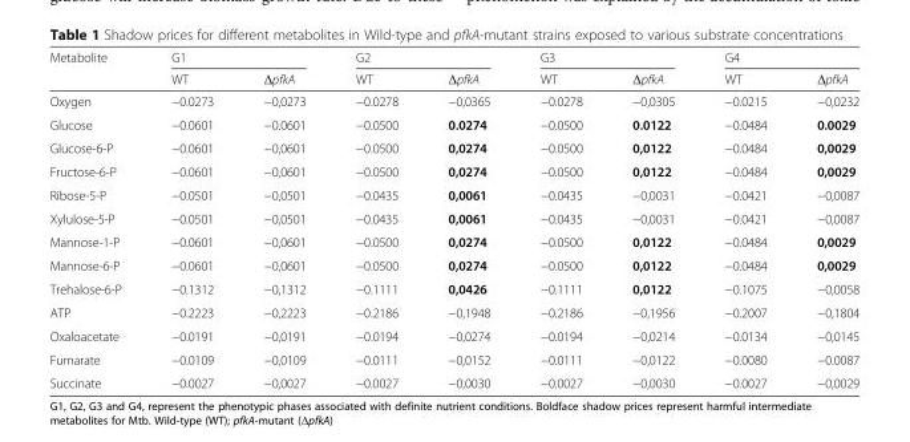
<table><thead><tr><td rowspan="2">Metabolite</td><td colspan="2">G1</td><td colspan="2">G2</td><td colspan="2">G3</td><td colspan="2">G4</td></tr><tr><td>WT</td><td>ΔpfkA</td><td>WT</td><td>ΔpfkA</td><td>WT</td><td>ΔpfkA</td><td>WT</td><td>ΔpfkA</td></tr></thead><tbody><tr><td>Oxygen</td><td>−0.0273</td><td>−0,0273</td><td>−0.0278</td><td>−0,0365</td><td>−0.0278</td><td>−0,0305</td><td>−0.0215</td><td>−0,0232</td></tr><tr><td>Glucose</td><td>−0.0601</td><td>−0.0601</td><td>−0.0500</td><td>0.0274</td><td>−0.0500</td><td>0.0122</td><td>−0.0484</td><td>0.0029</td></tr><tr><td>Glucose-6-P</td><td>−0.0601</td><td>−0,0601</td><td>−0.0500</td><td>0,0274</td><td>−0.0500</td><td>0,0122</td><td>−0.0484</td><td>0,0029</td></tr><tr><td>Fructose-6-P</td><td>−0.0601</td><td>−0,0601</td><td>−0.0500</td><td>0,0274</td><td>−0.0500</td><td>0,0122</td><td>−0.0484</td><td>0,0029</td></tr><tr><td>Ribose-5-P</td><td>−0.0501</td><td>−0,0501</td><td>−0.0435</td><td>0,0061</td><td>−0.0435</td><td>−0,0031</td><td>−0.0421</td><td>−0,0087</td></tr><tr><td>Xylulose-5-P</td><td>−0.0501</td><td>−0,0501</td><td>−0.0435</td><td>0,0061</td><td>−0.0435</td><td>−0,0031</td><td>−0.0421</td><td>−0,0087</td></tr><tr><td>Mannose-1-P</td><td>−0.0601</td><td>−0,0601</td><td>−0.0500</td><td>0,0274</td><td>−0.0500</td><td>0,0122</td><td>−0.0484</td><td>0,0029</td></tr><tr><td>Mannose-6-P</td><td>−0.0601</td><td>−0,0601</td><td>−0.0500</td><td>0,0274</td><td>−0.0500</td><td>0,0122</td><td>−0.0484</td><td>0,0029</td></tr><tr><td>Trehalose-6-P</td><td>−0.1312</td><td>−0,1312</td><td>−0.1111</td><td>0,0426</td><td>−0.1111</td><td>0,0122</td><td>−0.1075</td><td>−0,0058</td></tr><tr><td>ATP</td><td>−0.2223</td><td>−0,2223</td><td>−0.2186</td><td>−0,1948</td><td>−0.2186</td><td>−0,1956</td><td>−0.2007</td><td>−0,1804</td></tr><tr><td>Oxaloacetate</td><td>−0.0191</td><td>−0,0191</td><td>−0.0194</td><td>−0,0274</td><td>−0.0194</td><td>−0,0214</td><td>−0.0134</td><td>−0,0145</td></tr><tr><td>Fumarate</td><td>−0.0109</td><td>−0,0109</td><td>−0.0111</td><td>−0,0152</td><td>−0.0111</td><td>−0,0122</td><td>−0.0080</td><td>−0.0087</td></tr><tr><td>Succinate</td><td>−0.0027</td><td>−0,0027</td><td>−0.0027</td><td>−0,0030</td><td>−0.0027</td><td>−0,0030</td><td>−0.0027</td><td>−0,0029</td></tr></tbody></table>